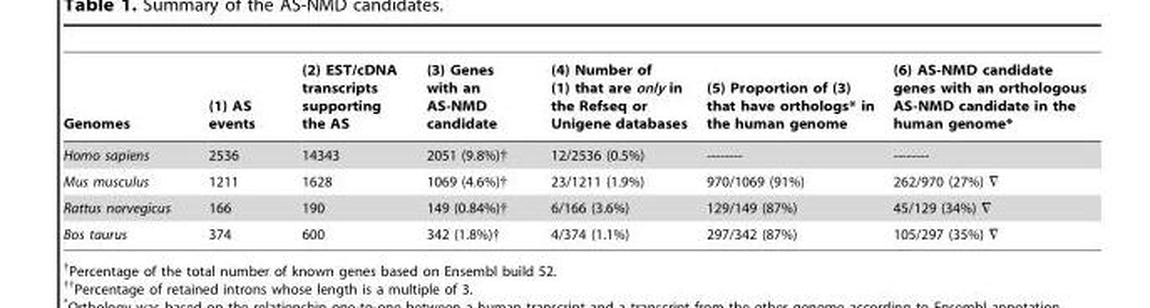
<table><thead><tr><td>Genomes</td><td>(1) AS events</td><td>(2) EST/cDNA transcripts supporting the AS</td><td>(3) Genes with an AS-NMD candidate</td><td>(4) Number of (1) that are only in the Refseq or Unigene databases</td><td>(5) Proportion of (3) that have orthologs* in the human genome</td><td>(6) AS-NMD candidate genes with an orthologous AS-NMD candidate in the human genome*</td></tr></thead><tbody><tr><td>Homo sapiens</td><td>2536</td><td>14343</td><td>2051 (9.8%)†</td><td>12/2536 (0.5%)</td><td>--------</td><td>--------</td></tr><tr><td>Mus musculus</td><td>1211</td><td>1628</td><td>1069 (4.6%)†</td><td>23/1211 (1.9%)</td><td>970/1069 (91%)</td><td>262/970 (27%) =</td></tr><tr><td>Rattus norvegicus</td><td>166</td><td>190</td><td>149 (0.84%)†</td><td>6/166 (3.6%)</td><td>129/149 (87%)</td><td>45/129 (34%) =</td></tr><tr><td>Bos taurus</td><td>374</td><td>600</td><td>342 (1.8%)†</td><td>4/374 (1.1%)</td><td>297/342 (87%)</td><td>105/297 (35%) =</td></tr></tbody></table>